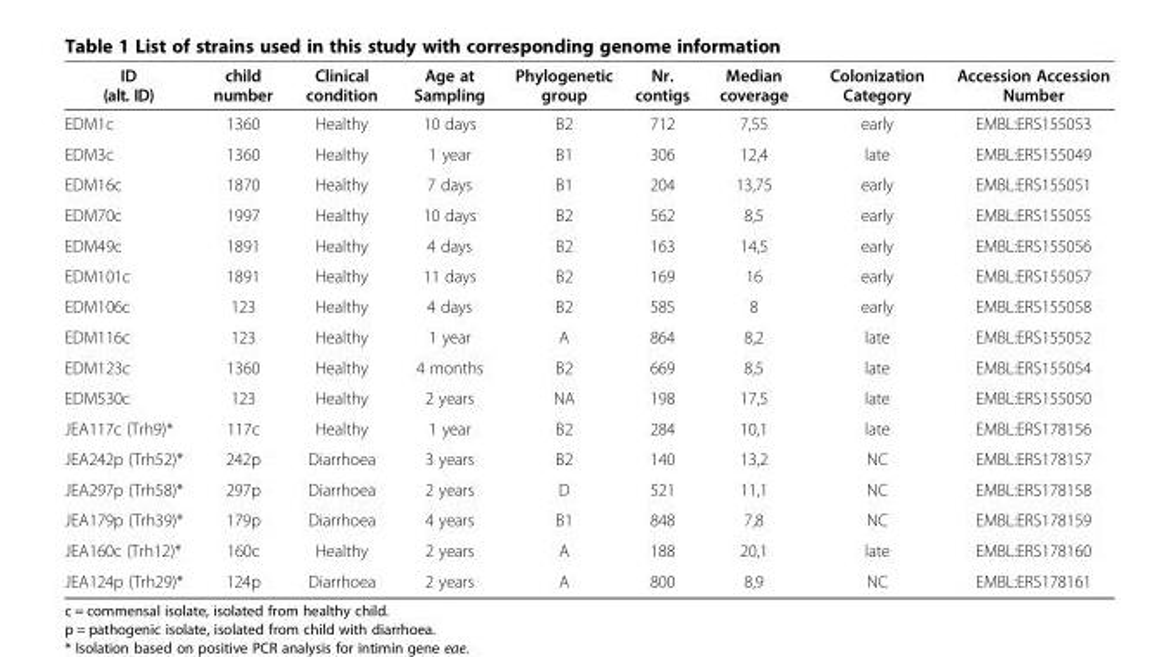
<table><thead><tr><td>ID (alt. ID)</td><td>child number</td><td>Clinical condition</td><td>Age at Sampling</td><td>Phylogenetic group</td><td>Nr. contigs</td><td>Median coverage</td><td>Colonization Category</td><td>Accession Accession Number</td></tr></thead><tbody><tr><td>EDM1c</td><td>1360</td><td>Healthy</td><td>10 days</td><td>B2</td><td>712</td><td>7,55</td><td>early</td><td>EMBL:ERS155053</td></tr><tr><td>EDM3c</td><td>1360</td><td>Healthy</td><td>1 year</td><td>B1</td><td>306</td><td>12,4</td><td>late</td><td>EMBL:ERS155049</td></tr><tr><td>EDM16c</td><td>1870</td><td>Healthy</td><td>7 days</td><td>B1</td><td>204</td><td>13,75</td><td>early</td><td>EMBL:ERS155051</td></tr><tr><td>EDM70c</td><td>1997</td><td>Healthy</td><td>10 days</td><td>B2</td><td>562</td><td>8,5</td><td>early</td><td>EMBL:ERS155055</td></tr><tr><td>EDM49c</td><td>1891</td><td>Healthy</td><td>4 days</td><td>B2</td><td>163</td><td>14,5</td><td>early</td><td>EMBL:ERS155056</td></tr><tr><td>EDM101c</td><td>1891</td><td>Healthy</td><td>11 days</td><td>B2</td><td>169</td><td>16</td><td>early</td><td>EMBL:ERS155057</td></tr><tr><td>EDM106c</td><td>123</td><td>Healthy</td><td>4 days</td><td>B2</td><td>585</td><td>8</td><td>early</td><td>EMBL:ERS155058</td></tr><tr><td>EDM116c</td><td>123</td><td>Healthy</td><td>1 year</td><td>A</td><td>864</td><td>8,2</td><td>late</td><td>EMBL:ERS155052</td></tr><tr><td>EDM123c</td><td>1360</td><td>Healthy</td><td>4 months</td><td>B2</td><td>669</td><td>8,5</td><td>late</td><td>EMBL:ERS155054</td></tr><tr><td>EDM530c</td><td>123</td><td>Healthy</td><td>2 years</td><td>NA</td><td>198</td><td>17,5</td><td>late</td><td>EMBL:ERS155050</td></tr><tr><td>JEA117c (Trh9)*</td><td>117c</td><td>Healthy</td><td>1 year</td><td>B2</td><td>284</td><td>10,1</td><td>late</td><td>EMBL:ERS178156</td></tr><tr><td>JEA242p (Trh52)*</td><td>242p</td><td>Diarrhoea</td><td>3 years</td><td>B2</td><td>140</td><td>13,2</td><td>NC</td><td>EMBL:ERS178157</td></tr><tr><td>JEA297p (Trh58)*</td><td>297p</td><td>Diarrhoea</td><td>2 years</td><td>D</td><td>521</td><td>11,1</td><td>NC</td><td>EMBL:ERS178158</td></tr><tr><td>JEA179p (Trh39)*</td><td>179p</td><td>Diarrhoea</td><td>4 years</td><td>B1</td><td>848</td><td>7,8</td><td>NC</td><td>EMBL:ERS178159</td></tr><tr><td>JEA160c (Trh12)*</td><td>160c</td><td>Healthy</td><td>2 years</td><td>A</td><td>188</td><td>20,1</td><td>late</td><td>EMBL:ERS178160</td></tr><tr><td>JEA124p (Trh29)*</td><td>124p</td><td>Diarrhoea</td><td>2 years</td><td>A</td><td>800</td><td>8,9</td><td>NC</td><td>EMBL:ERS178161</td></tr></tbody></table>